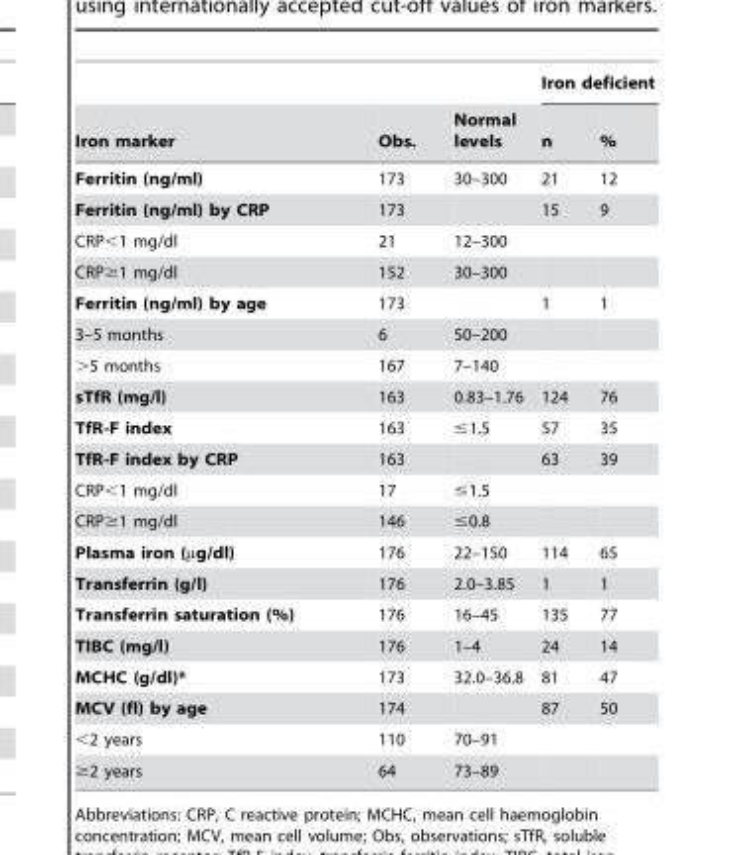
<table><thead><tr><td rowspan="2">Iron marker</td><td rowspan="2">Obs.</td><td rowspan="2">Normal levels</td><td colspan="2">Iron deficient</td></tr><tr><td>n</td><td>%</td></tr></thead><tbody><tr><td>Ferritin (ng/ml)</td><td>173</td><td>30–300</td><td>21</td><td>12</td></tr><tr><td>Ferritin (ng/ml) by CRP</td><td>173</td><td></td><td>15</td><td>9</td></tr><tr><td>CRP&lt;1 mg/dl</td><td>21</td><td>12–300</td><td></td><td></td></tr><tr><td>CRP≥1 mg/dl</td><td>152</td><td>30–300</td><td></td><td></td></tr><tr><td>Ferritin (ng/ml) by age</td><td>173</td><td></td><td>1</td><td>1</td></tr><tr><td>3–5 months</td><td>6</td><td>50–200</td><td></td><td></td></tr><tr><td>&gt;5 months</td><td>167</td><td>7–140</td><td></td><td></td></tr><tr><td>sTfR (mg/l)</td><td>163</td><td>0.83–1.76</td><td>124</td><td>76</td></tr><tr><td>TfR-F index</td><td>163</td><td>≤1.5</td><td>57</td><td>35</td></tr><tr><td>TfR-F index by CRP</td><td>163</td><td></td><td>63</td><td>39</td></tr><tr><td>CRP&lt;1 mg/dl</td><td>17</td><td>≤1.5</td><td></td><td></td></tr><tr><td>CRP≥1 mg/dl</td><td>146</td><td>≤0.8</td><td></td><td></td></tr><tr><td>Plasma iron (µg/dl)</td><td>176</td><td>22–150</td><td>114</td><td>65</td></tr><tr><td>Transferrin (g/l)</td><td>176</td><td>2.0–3.85</td><td>1</td><td>1</td></tr><tr><td>Transferrin saturation (%)</td><td>176</td><td>16–45</td><td>135</td><td>77</td></tr><tr><td>TIBC (mg/l)</td><td>176</td><td>1–4</td><td>24</td><td>14</td></tr><tr><td>MCHC (g/dl)*</td><td>173</td><td>32.0–36.8</td><td>81</td><td>47</td></tr><tr><td>MCV (fl) by age</td><td>174</td><td></td><td>87</td><td>50</td></tr><tr><td>&lt;2 years</td><td>110</td><td>70–91</td><td></td><td></td></tr><tr><td>≥2 years</td><td>64</td><td>73–89</td><td></td><td></td></tr></tbody></table>